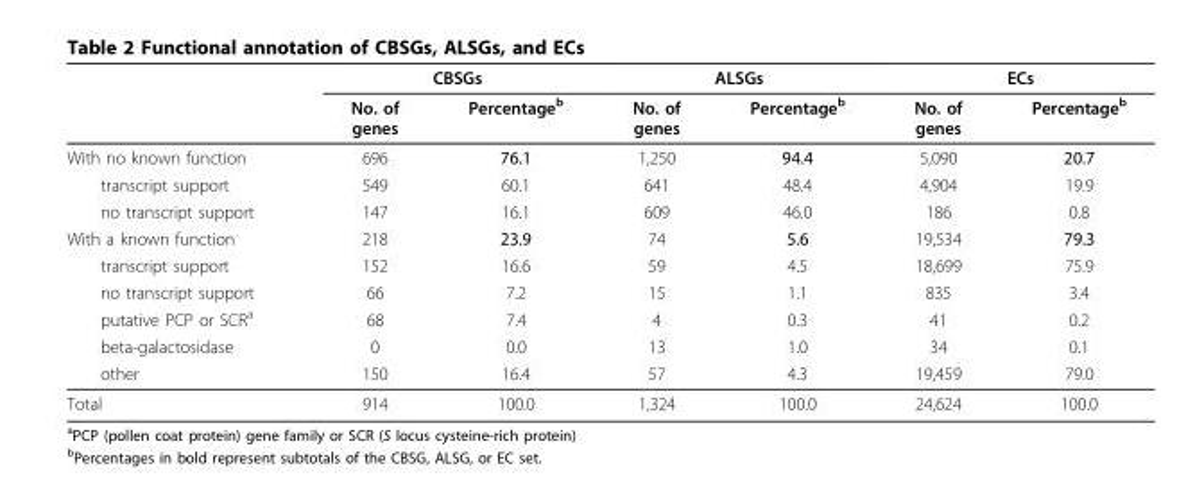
<table><thead><tr><td rowspan="2"></td><td colspan="2">CBSGs</td><td colspan="2">ALSGs</td><td colspan="2">ECs</td></tr><tr><td>No. of genes</td><td>Percentage<sup>b</sup></td><td>No. of genes</td><td>Percentage<sup>b</sup></td><td>No. of genes</td><td>Percentage<sup>b</sup></td></tr></thead><tbody><tr><td>With no known function</td><td>696</td><td>76.1</td><td>1,250</td><td>94.4</td><td>5,090</td><td>20.7</td></tr><tr><td>transcript support</td><td>549</td><td>60.1</td><td>641</td><td>48.4</td><td>4,904</td><td>19.9</td></tr><tr><td>no transcript support</td><td>147</td><td>16.1</td><td>609</td><td>46.0</td><td>186</td><td>0.8</td></tr><tr><td>With a known function</td><td>218</td><td>23.9</td><td>74</td><td>5.6</td><td>19,534</td><td>79.3</td></tr><tr><td>transcript support</td><td>152</td><td>16.6</td><td>59</td><td>4.5</td><td>18,699</td><td>75.9</td></tr><tr><td>no transcript support</td><td>66</td><td>7.2</td><td>15</td><td>1.1</td><td>835</td><td>3.4</td></tr><tr><td>putative PCP or SCR<sup>a</sup></td><td>68</td><td>7.4</td><td>4</td><td>0.3</td><td>41</td><td>0.2</td></tr><tr><td>beta-galactosidase</td><td>0</td><td>0.0</td><td>13</td><td>1.0</td><td>34</td><td>0.1</td></tr><tr><td>other</td><td>150</td><td>16.4</td><td>57</td><td>4.3</td><td>19,459</td><td>79.0</td></tr><tr><td>Total</td><td>914</td><td>100.0</td><td>1,324</td><td>100.0</td><td>24,624</td><td>100.0</td></tr></tbody></table>